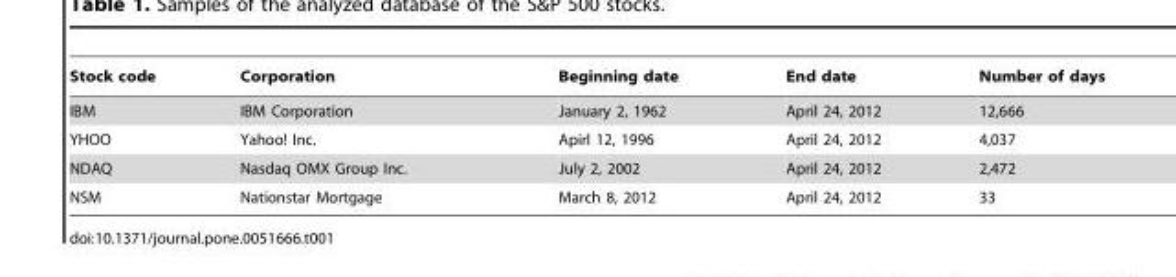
<table><thead><tr><td>Stock code</td><td>Corporation</td><td>Beginning date</td><td>End date</td><td>Number of days</td></tr></thead><tbody><tr><td>IBM</td><td>IBM Corporation</td><td>January 2, 1962</td><td>April 24, 2012</td><td>12,666</td></tr><tr><td>YHOO</td><td>Yahoo! Inc.</td><td>Apirl 12, 1996</td><td>April 24, 2012</td><td>4,037</td></tr><tr><td>NDAQ</td><td>Nasdaq OMX Group Inc.</td><td>July 2, 2002</td><td>April 24, 2012</td><td>2,472</td></tr><tr><td>NSM</td><td>Nationstar Mortgage</td><td>March 8, 2012</td><td>April 24, 2012</td><td>33</td></tr></tbody></table>